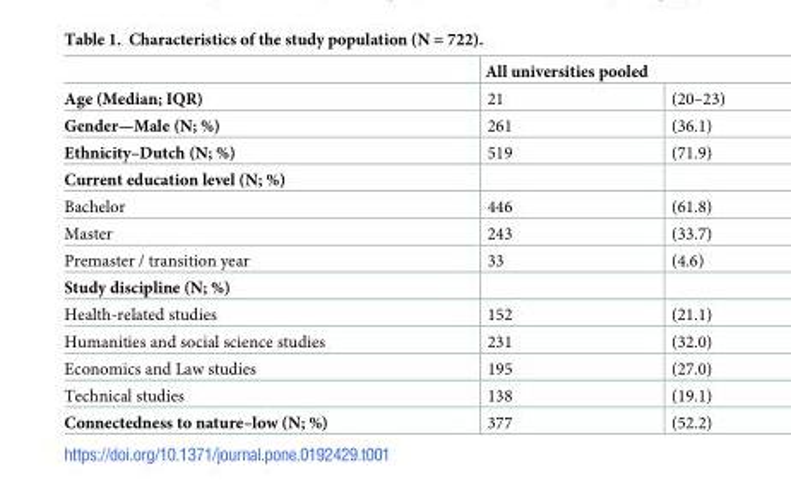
<table><thead><tr><td rowspan="2">Age (Median; IQR)</td><td colspan="2">All universities pooled</td></tr><tr><td>21</td><td>(20–23)</td></tr></thead><tbody><tr><td>Gender—Male (N; %)</td><td>261</td><td>(36.1)</td></tr><tr><td>Ethnicity–Dutch (N; %)</td><td>519</td><td>(71.9)</td></tr><tr><td colspan="3">Current education level (N; %)</td></tr><tr><td>Bachelor</td><td>446</td><td>(61.8)</td></tr><tr><td>Master</td><td>243</td><td>(33.7)</td></tr><tr><td>Premaster / transition year</td><td>33</td><td>(4.6)</td></tr><tr><td colspan="3">Study discipline (N; %)</td></tr><tr><td>Health-related studies</td><td>152</td><td>(21.1)</td></tr><tr><td>Humanities and social science studies</td><td>231</td><td>(32.0)</td></tr><tr><td>Economics and Law studies</td><td>195</td><td>(27.0)</td></tr><tr><td>Technical studies</td><td>138</td><td>(19.1)</td></tr><tr><td>Connectedness to nature–low (N; %)</td><td>377</td><td>(52.2)</td></tr></tbody></table>